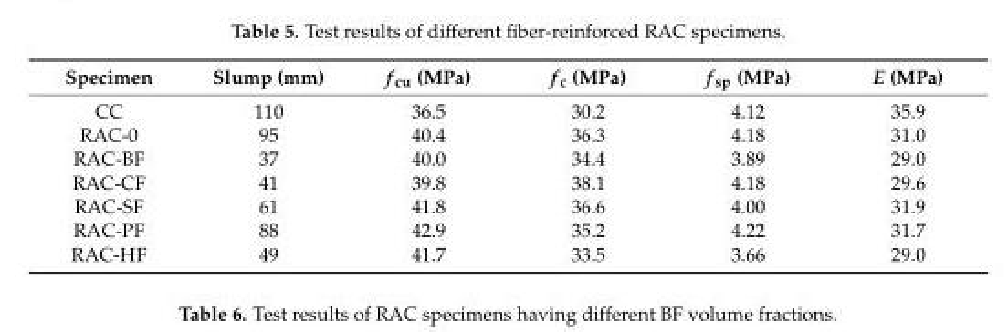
<table><thead><tr><td>Specimen</td><td>Slump (mm)</td><td>f<sub>cu</sub> (MPa)</td><td>f<sub>c</sub> (MPa)</td><td>f<sub>sp</sub> (MPa)</td><td>E (MPa)</td></tr></thead><tbody><tr><td>CC</td><td>110</td><td>36.5</td><td>30.2</td><td>4.12</td><td>35.9</td></tr><tr><td>RAC-0</td><td>95</td><td>40.4</td><td>36.3</td><td>4.18</td><td>31.0</td></tr><tr><td>RAC-BF</td><td>37</td><td>40.0</td><td>34.4</td><td>3.89</td><td>29.0</td></tr><tr><td>RAC-CF</td><td>41</td><td>39.8</td><td>38.1</td><td>4.18</td><td>29.6</td></tr><tr><td>RAC-SF</td><td>61</td><td>41.8</td><td>36.6</td><td>4.00</td><td>31.9</td></tr><tr><td>RAC-PF</td><td>88</td><td>42.9</td><td>35.2</td><td>4.22</td><td>31.7</td></tr><tr><td>RAC-HF</td><td>49</td><td>41.7</td><td>33.5</td><td>3.66</td><td>29.0</td></tr></tbody></table>